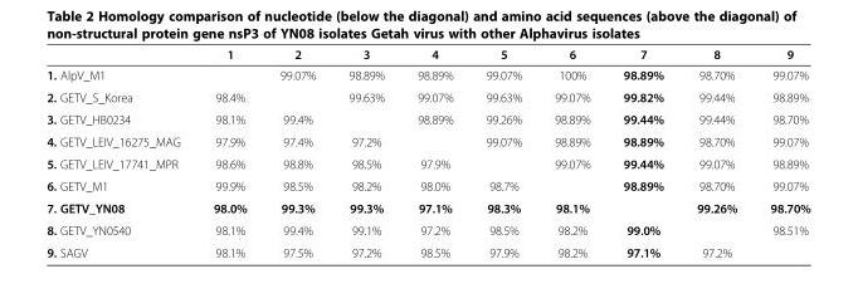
<table><thead><tr><td></td><td>1</td><td>2</td><td>3</td><td>4</td><td>5</td><td>6</td><td>7</td><td>8</td><td>9</td></tr></thead><tbody><tr><td>1. AlpV_M1</td><td></td><td>99.07%</td><td>98.89%</td><td>98.89%</td><td>99.07%</td><td>100%</td><td>98.89%</td><td>98.70%</td><td>99.07%</td></tr><tr><td>2. GETV_S_Korea</td><td>98.4%</td><td></td><td>99.63%</td><td>99.07%</td><td>99.63%</td><td>99.07%</td><td>99.82%</td><td>99.44%</td><td>98.89%</td></tr><tr><td>3. GETV_HB0234</td><td>98.1%</td><td>99.4%</td><td></td><td>98.89%</td><td>99.26%</td><td>98.89%</td><td>99.44%</td><td>99.44%</td><td>98.70%</td></tr><tr><td>4. GETV_LEIV_16275_MAG</td><td>97.9%</td><td>97.4%</td><td>97.2%</td><td></td><td>99.07%</td><td>98.89%</td><td>98.89%</td><td>98.70%</td><td>99.07%</td></tr><tr><td>5. GETV_LEIV_17741_MPR</td><td>98.6%</td><td>98.8%</td><td>98.5%</td><td>97.9%</td><td></td><td>99.07%</td><td>99.44%</td><td>99.07%</td><td>98.89%</td></tr><tr><td>6. GETV_M1</td><td>99.9%</td><td>98.5%</td><td>98.2%</td><td>98.0%</td><td>98.7%</td><td></td><td>98.89%</td><td>98.70%</td><td>99.07%</td></tr><tr><td>7. GETV_YN08</td><td>98.0%</td><td>99.3%</td><td>99.3%</td><td>97.1%</td><td>98.3%</td><td>98.1%</td><td></td><td>99.26%</td><td>98.70%</td></tr><tr><td>8. GETV_YN0540</td><td>98.1%</td><td>99.4%</td><td>99.1%</td><td>97.2%</td><td>98.5%</td><td>98.2%</td><td>99.0%</td><td></td><td>98.51%</td></tr><tr><td>9. SAGV</td><td>98.1%</td><td>97.5%</td><td>97.2%</td><td>98.5%</td><td>97.9%</td><td>98.2%</td><td>97.1%</td><td>97.2%</td><td></td></tr></tbody></table>